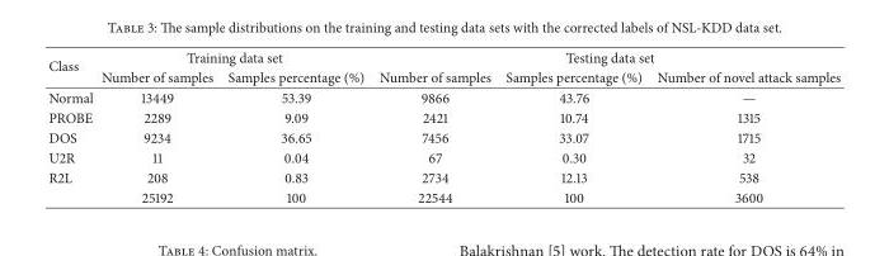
<table><thead><tr><td rowspan="2">Class</td><td colspan="2">Training data set</td><td colspan="3">Testing data set</td></tr><tr><td>Number of samples</td><td>Samples percentage (%)</td><td>Number of samples</td><td>Samples percentage (%)</td><td>Number of novel attack samples</td></tr></thead><tbody><tr><td>Normal</td><td>13449</td><td>53.39</td><td>9866</td><td>43.76</td><td>—</td></tr><tr><td>PROBE</td><td>2289</td><td>9.09</td><td>2421</td><td>10.74</td><td>1315</td></tr><tr><td>DOS</td><td>9234</td><td>36.65</td><td>7456</td><td>33.07</td><td>1715</td></tr><tr><td>U2R</td><td>11</td><td>0.04</td><td>67</td><td>0.30</td><td>32</td></tr><tr><td rowspan="2">R2L</td><td>208</td><td>0.83</td><td>2734</td><td>12.13</td><td>538</td></tr><tr><td>25192</td><td>100</td><td>22544</td><td>100</td><td>3600</td></tr></tbody></table>